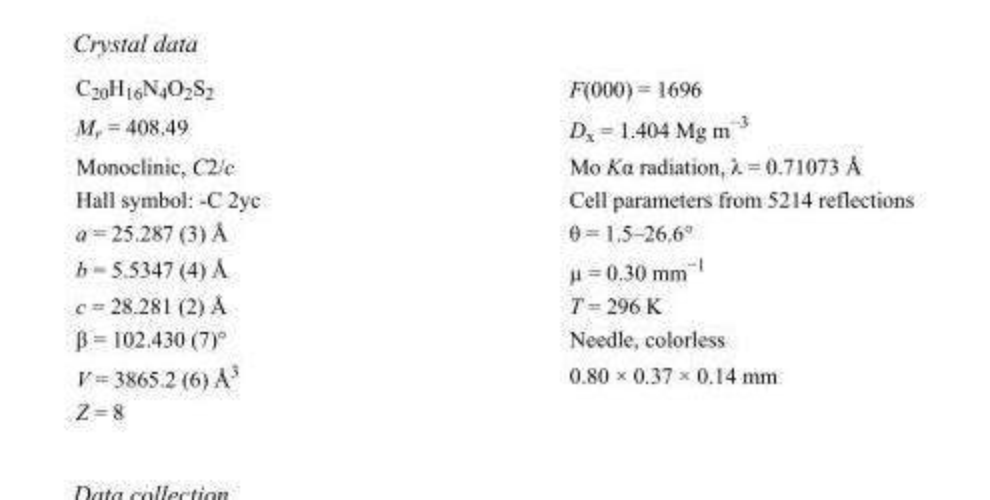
<table><tbody><tr><td>C<sub>20</sub>H<sub>16</sub>N<sub>4</sub>O<sub>2</sub>S<sub>2</sub></td><td>F(000) = 1696</td></tr><tr><td>M<sub>r</sub> = 408.49</td><td>D<sub>x</sub> = 1.404 Mg m<sup>−3</sup></td></tr><tr><td>Monoclinic, C2/c</td><td>Mo Kα radiation, λ = 0.71073 Å</td></tr><tr><td>Hall symbol: -C 2yc</td><td>Cell parameters from 5214 reflections</td></tr><tr><td>a = 25.287 (3) Å</td><td>θ = 1.5–26.6°</td></tr><tr><td>b = 5.5347 (4) Å</td><td>µ = 0.30 mm<sup>−1</sup></td></tr><tr><td>c = 28.281 (2) Å</td><td>T = 296 K</td></tr><tr><td>β = 102.430 (7)°</td><td>Needle, colorless</td></tr><tr><td>V = 3865.2 (6) Å<sup>3</sup></td><td>0.80 × 0.37 × 0.14 mm</td></tr><tr><td>Z = 8</td><td></td></tr></tbody></table>